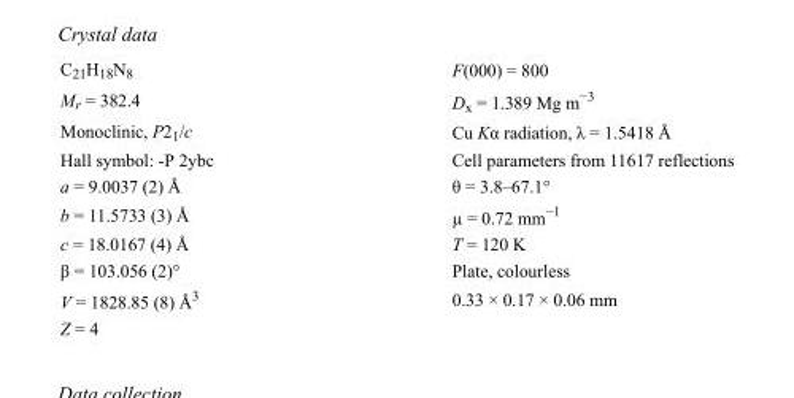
<table><tbody><tr><td>C<sub>21</sub>H<sub>18</sub>N<sub>8</sub></td><td>F(000) = 800</td></tr><tr><td>M<sub>r</sub> = 382.4</td><td>D<sub>x</sub> = 1.389 Mg m<sup>−3</sup></td></tr><tr><td>Monoclinic, P2<sub>1</sub>/c</td><td>Cu Kα radiation, λ = 1.5418 Å</td></tr><tr><td>Hall symbol: -P 2ybc</td><td>Cell parameters from 11617 reflections</td></tr><tr><td>a = 9.0037 (2) Å</td><td>θ = 3.8–67.1°</td></tr><tr><td>b = 11.5733 (3) Å</td><td>µ = 0.72 mm<sup>−1</sup></td></tr><tr><td>c = 18.0167 (4) Å</td><td>T = 120 K</td></tr><tr><td>β = 103.056 (2)°</td><td>Plate, colourless</td></tr><tr><td>V = 1828.85 (8) Å<sup>3</sup></td><td>0.33 × 0.17 × 0.06 mm</td></tr><tr><td>Z = 4</td><td></td></tr></tbody></table>